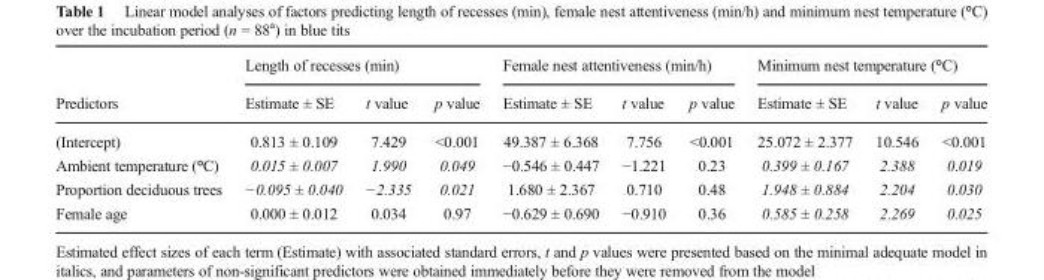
<table><thead><tr><td rowspan="2">Predictors</td><td colspan="3">Length of recesses (min)</td><td colspan="3">Female nest attentiveness (min/h)</td><td colspan="3">Minimum nest temperature (°C)</td></tr><tr><td>Estimate ± SE</td><td>t value</td><td>p value</td><td>Estimate ± SE</td><td>t value</td><td>p value</td><td>Estimate ± SE</td><td>t value</td><td>p value</td></tr></thead><tbody><tr><td>(Intercept)</td><td>0.813 ± 0.109</td><td>7.429</td><td>&lt;0.001</td><td>49.387 ± 6.368</td><td>7.756</td><td>&lt;0.001</td><td>25.072 ± 2.377</td><td>10.546</td><td>&lt;0.001</td></tr><tr><td>Ambient temperature (°C)</td><td>0.015 ± 0.007</td><td>1.990</td><td>0.049</td><td>−0.546 ± 0.447</td><td>−1.221</td><td>0.23</td><td>0.399 ± 0.167</td><td>2.388</td><td>0.019</td></tr><tr><td>Proportion deciduous trees</td><td>−0.095 ± 0.040</td><td>−2.335</td><td>0.021</td><td>1.680 ± 2.367</td><td>0.710</td><td>0.48</td><td>1.948 ± 0.884</td><td>2.204</td><td>0.030</td></tr><tr><td>Female age</td><td>0.000 ± 0.012</td><td>0.034</td><td>0.97</td><td>−0.629 ± 0.690</td><td>−0.910</td><td>0.36</td><td>0.585 ± 0.258</td><td>2.269</td><td>0.025</td></tr></tbody></table>